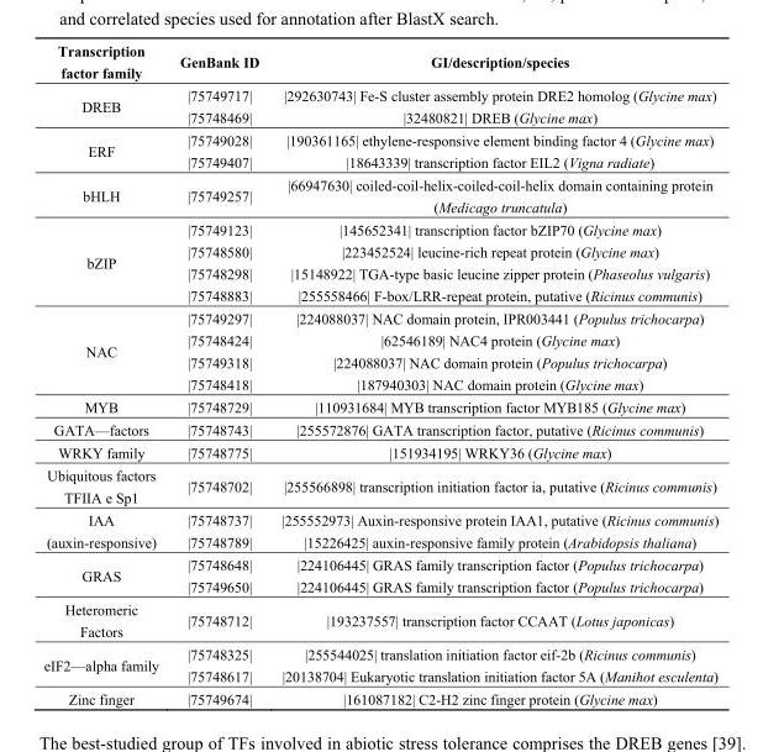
<table><thead><tr><td>Transcription factor family</td><td>GenBank ID</td><td>GI/description/species</td></tr></thead><tbody><tr><td rowspan="2">DREB</td><td>|75749717|</td><td>|292630743| Fe-S cluster assembly protein DRE2 homolog (Glycine max)</td></tr><tr><td>|75748469|</td><td>|32480821| DREB (Glycine max)</td></tr><tr><td rowspan="2">ERF</td><td>|75749028|</td><td>|190361165| ethylene-responsive element binding factor 4 (Glycine max)</td></tr><tr><td>|75749407|</td><td>|18643339| transcription factor EIL2 (Vigna radiate)</td></tr><tr><td>bHLH</td><td>|75749257|</td><td>|66947630| coiled-coil-helix-coiled-coil-helix domain containing protein (Medicago truncatula)</td></tr><tr><td rowspan="4">bZIP</td><td>|75749123|</td><td>|145652341| transcription factor bZIP70 (Glycine max)</td></tr><tr><td>|75748580|</td><td>|223452524| leucine-rich repeat protein (Glycine max)</td></tr><tr><td>|75748298|</td><td>|15148922| TGA-type basic leucine zipper protein (Phaseolus vulgaris)</td></tr><tr><td>|75748883|</td><td>|255558466| F-box/LRR-repeat protein, putative (Ricinus communis)</td></tr><tr><td rowspan="4">NAC</td><td>|75749297|</td><td>|224088037| NAC domain protein, IPR003441 (Populus trichocarpa)</td></tr><tr><td>|75748424|</td><td>|62546189| NAC4 protein (Glycine max)</td></tr><tr><td>|75749318|</td><td>|224088037| NAC domain protein (Populus trichocarpa)</td></tr><tr><td>|75748418|</td><td>|187940303| NAC domain protein (Glycine max)</td></tr><tr><td>MYB</td><td>|75748729|</td><td>|110931684| MYB transcription factor MYB185 (Glycine max)</td></tr><tr><td>GATA—factors</td><td>|75748743|</td><td>|255572876| GATA transcription factor, putative (Ricinus communis)</td></tr><tr><td>WRKY family</td><td>|75748775|</td><td>|151934195| WRKY36 (Glycine max)</td></tr><tr><td>Ubiquitous factors TFIIA e Sp1</td><td>|75748702|</td><td>|255566898| transcription initiation factor ia, putative (Ricinus communis)</td></tr><tr><td rowspan="2">IAA (auxin-responsive)</td><td>|75748737|</td><td>|255552973| Auxin-responsive protein IAA1, putative (Ricinus communis)</td></tr><tr><td>|75748789|</td><td>|15226425| auxin-responsive family protein (Arabidopsis thaliana)</td></tr><tr><td rowspan="2">GRAS</td><td>|75748648|</td><td>|224106445| GRAS family transcription factor (Populus trichocarpa)</td></tr><tr><td>|75749650|</td><td>|224106445| GRAS family transcription factor (Populus trichocarpa)</td></tr><tr><td>Heteromeric Factors</td><td>|75748712|</td><td>|193237557| transcription factor CCAAT (Lotus japonicas)</td></tr><tr><td rowspan="2">eIF2—alpha family</td><td>|75748325|</td><td>|255544025| translation initiation factor eif-2b (Ricinus communis)</td></tr><tr><td>|75748617|</td><td>|20138704| Eukaryotic translation initiation factor 5A (Manihot esculenta)</td></tr><tr><td>Zinc finger</td><td>|75749674|</td><td>|161087182| C2-H2 zinc finger protein (Glycine max)</td></tr></tbody></table>